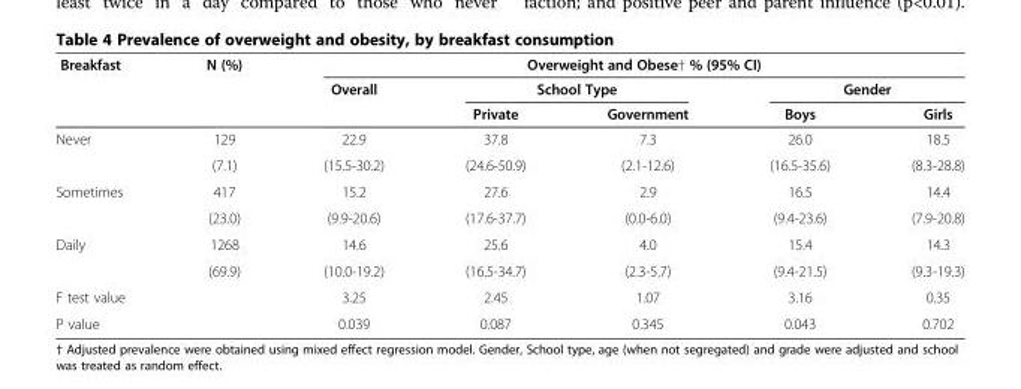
<table><thead><tr><td rowspan="3">Breakfast</td><td rowspan="3">N (%)</td><td colspan="5">Overweight and Obese† % (95% CI)</td></tr><tr><td rowspan="2">Overall</td><td colspan="2">School Type</td><td colspan="2">Gender</td></tr><tr><td>Private</td><td>Government</td><td>Boys</td><td>Girls</td></tr></thead><tbody><tr><td rowspan="2">Never</td><td>129</td><td>22.9</td><td>37.8</td><td>7.3</td><td>26.0</td><td>18.5</td></tr><tr><td>(7.1)</td><td>(15.5-30.2)</td><td>(24.6-50.9)</td><td>(2.1-12.6)</td><td>(16.5-35.6)</td><td>(8.3-28.8)</td></tr><tr><td rowspan="2">Sometimes</td><td>417</td><td>15.2</td><td>27.6</td><td>2.9</td><td>16.5</td><td>14.4</td></tr><tr><td>(23.0)</td><td>(9.9-20.6)</td><td>(17.6-37.7)</td><td>(0.0-6.0)</td><td>(9.4-23.6)</td><td>(7.9-20.8)</td></tr><tr><td rowspan="2">Daily</td><td>1268</td><td>14.6</td><td>25.6</td><td>4.0</td><td>15.4</td><td>14.3</td></tr><tr><td>(69.9)</td><td>(10.0-19.2)</td><td>(16.5-34.7)</td><td>(2.3-5.7)</td><td>(9.4-21.5)</td><td>(9.3-19.3)</td></tr><tr><td>F test value</td><td></td><td>3.25</td><td>2.45</td><td>1.07</td><td>3.16</td><td>0.35</td></tr><tr><td>P value</td><td></td><td>0.039</td><td>0.087</td><td>0.345</td><td>0.043</td><td>0.702</td></tr></tbody></table>